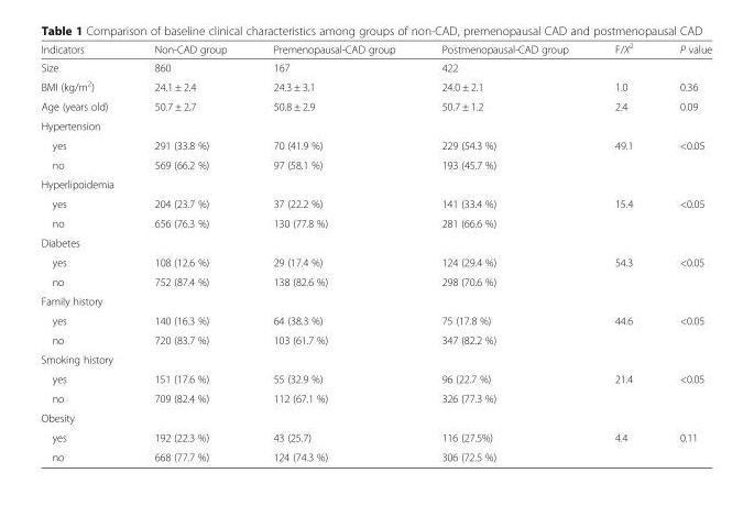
<table><thead><tr><td>Indicators</td><td>Non-CAD group</td><td>Premenopausal-CAD group</td><td>Postmenopausal-CAD group</td><td>F/X<sup>2</sup></td><td>P value</td></tr></thead><tbody><tr><td>Size</td><td>860</td><td>167</td><td>422</td><td></td><td></td></tr><tr><td>BMI (kg/m<sup>2</sup>)</td><td>24.1 ± 2.4</td><td>24.3 ± 3.1</td><td>24.0 ± 2.1</td><td>1.0</td><td>0.36</td></tr><tr><td>Age (years old)</td><td>50.7 ± 2.7</td><td>50.8 ± 2.9</td><td>50.7 ± 1.2</td><td>2.4</td><td>0.09</td></tr><tr><td colspan="6">Hypertension</td></tr><tr><td>yes</td><td>291 (33.8 %)</td><td>70 (41.9 %)</td><td>229 (54.3 %)</td><td>49.1</td><td>&lt;0.05</td></tr><tr><td>no</td><td>569 (66.2 %)</td><td>97 (58.1 %)</td><td>193 (45.7 %)</td><td></td><td></td></tr><tr><td colspan="6">Hyperlipoidemia</td></tr><tr><td>yes</td><td>204 (23.7 %)</td><td>37 (22.2 %)</td><td>141 (33.4 %)</td><td>15.4</td><td>&lt;0.05</td></tr><tr><td>no</td><td>656 (76.3 %)</td><td>130 (77.8 %)</td><td>281 (66.6 %)</td><td></td><td></td></tr><tr><td colspan="6">Diabetes</td></tr><tr><td>yes</td><td>108 (12.6 %)</td><td>29 (17.4 %)</td><td>124 (29.4 %)</td><td>54.3</td><td>&lt;0.05</td></tr><tr><td>no</td><td>752 (87.4 %)</td><td>138 (82.6 %)</td><td>298 (70.6 %)</td><td></td><td></td></tr><tr><td colspan="6">Family history</td></tr><tr><td>yes</td><td>140 (16.3 %)</td><td>64 (38.3 %)</td><td>75 (17.8 %)</td><td>44.6</td><td>&lt;0.05</td></tr><tr><td>no</td><td>720 (83.7 %)</td><td>103 (61.7 %)</td><td>347 (82.2 %)</td><td></td><td></td></tr><tr><td colspan="6">Smoking history</td></tr><tr><td>yes</td><td>151 (17.6 %)</td><td>55 (32.9 %)</td><td>96 (22.7 %)</td><td>21.4</td><td>&lt;0.05</td></tr><tr><td>no</td><td>709 (82.4 %)</td><td>112 (67.1 %)</td><td>326 (77.3 %)</td><td></td><td></td></tr><tr><td colspan="6">Obesity</td></tr><tr><td>yes</td><td>192 (22.3 %)</td><td>43 (25.7)</td><td>116 (27.5%)</td><td>4.4</td><td>0.11</td></tr><tr><td>no</td><td>668 (77.7 %)</td><td>124 (74.3 %)</td><td>306 (72.5 %)</td><td></td><td></td></tr></tbody></table>